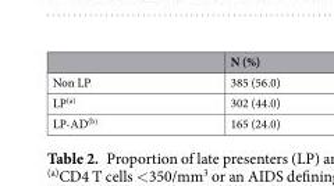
<table><thead><tr><td></td><td>N (%)</td></tr></thead><tbody><tr><td>Non LP</td><td>385 (56.0)</td></tr><tr><td>LP<sup>(a)</sup></td><td>302 (44.0)</td></tr><tr><td>LP-AD<sup>(b)</sup></td><td>165 (24.0)</td></tr></tbody></table>